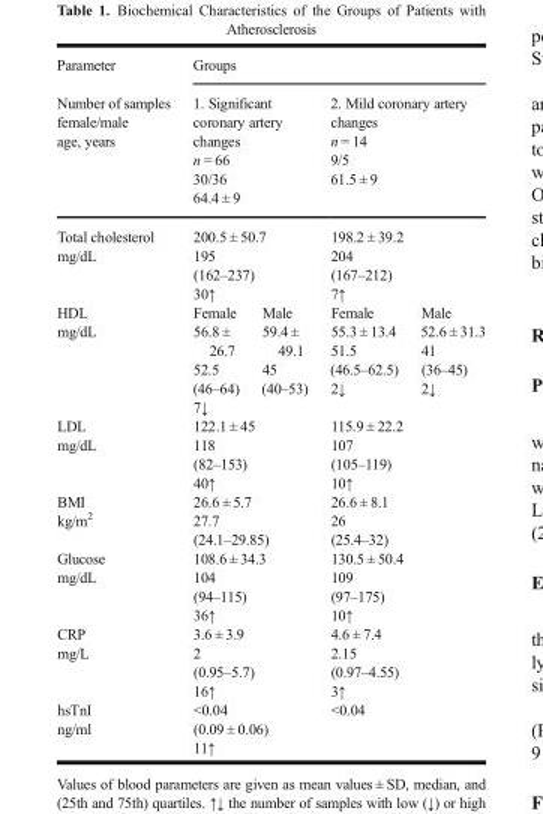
<table><thead><tr><td rowspan="4">Parameter Number of samples female/male age, years Total cholesterol mg/dL HDL mg/dL</td><td colspan="4">Groups</td></tr><tr><td rowspan="2" colspan="2">1. Significant coronary artery changes n = 66 30/36 64.4 ± 9 200.5 ± 50.7 195 (162–237) 30↑</td><td rowspan="2" colspan="2">2. Mild coronary artery changes n = 14 9/5 61.5 ± 9 198.2 ± 39.2 204 (167–212) 7↑</td></tr><tr></tr><tr><td>Female 56.8 ± 26.7 52.5 (46–64) 7↓</td><td>Male 59.4 ± 49.1 45 (40–53)</td><td>Female 55.3 ± 13.4 51.5 (46.5–62.5) 2↓</td><td>Male 52.6 ± 31.3 41 (36–45) 2↓</td></tr></thead><tbody><tr><td>LDL mg/dL</td><td colspan="2">122.1 ± 45 118 (82–153) 40↑</td><td colspan="2">115.9 ± 22.2 107 (105–119) 10↑</td></tr><tr><td>BMI kg/m<sup>2</sup></td><td colspan="2">26.6 ± 5.7 27.7 (24.1–29.85)</td><td colspan="2">26.6 ± 8.1 26 (25.4–32)</td></tr><tr><td>Glucose mg/dL</td><td colspan="2">108.6 ± 34.3 104 (94–115) 36↑</td><td colspan="2">130.5 ± 50.4 109 (97–175) 10↑</td></tr><tr><td>CRP mg/L</td><td colspan="2">3.6 ± 3.9 2 (0.95–5.7) 16↑</td><td colspan="2">4.6 ± 7.4 2.15 (0.97–4.55) 3↑</td></tr><tr><td>hsTnI ng/ml</td><td colspan="2">&lt;0.04 (0.09 ± 0.06) 11↑</td><td colspan="2">&lt;0.04</td></tr></tbody></table>